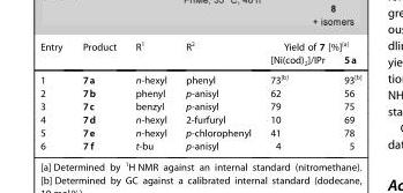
<table><thead><tr><td rowspan="2">Entry</td><td rowspan="2">Product</td><td rowspan="2">R<sup>1</sup></td><td rowspan="2">R<sup>2</sup></td><td colspan="2">Yield of 7 [%]<sup>[a]</sup></td></tr><tr><td>[Ni(cod)<sub>2</sub>]/IPr</td><td>5a</td></tr></thead><tbody><tr><td>1</td><td>7a</td><td>n-hexyl</td><td>phenyl</td><td>73<sup>[b]</sup></td><td>93<sup>[b]</sup></td></tr><tr><td>2</td><td>7b</td><td>phenyl</td><td>p-anisyl</td><td>62</td><td>56</td></tr><tr><td>3</td><td>7c</td><td>benzyl</td><td>p-anisyl</td><td>79</td><td>75</td></tr><tr><td>4</td><td>7d</td><td>n-hexyl</td><td>2-furfuryl</td><td>10</td><td>69</td></tr><tr><td>5</td><td>7e</td><td>n-hexyl</td><td>p-chlorophenyl</td><td>41</td><td>78</td></tr><tr><td>6</td><td>7 f</td><td>t-bu</td><td>p-anisyl</td><td>4</td><td>5</td></tr></tbody></table>